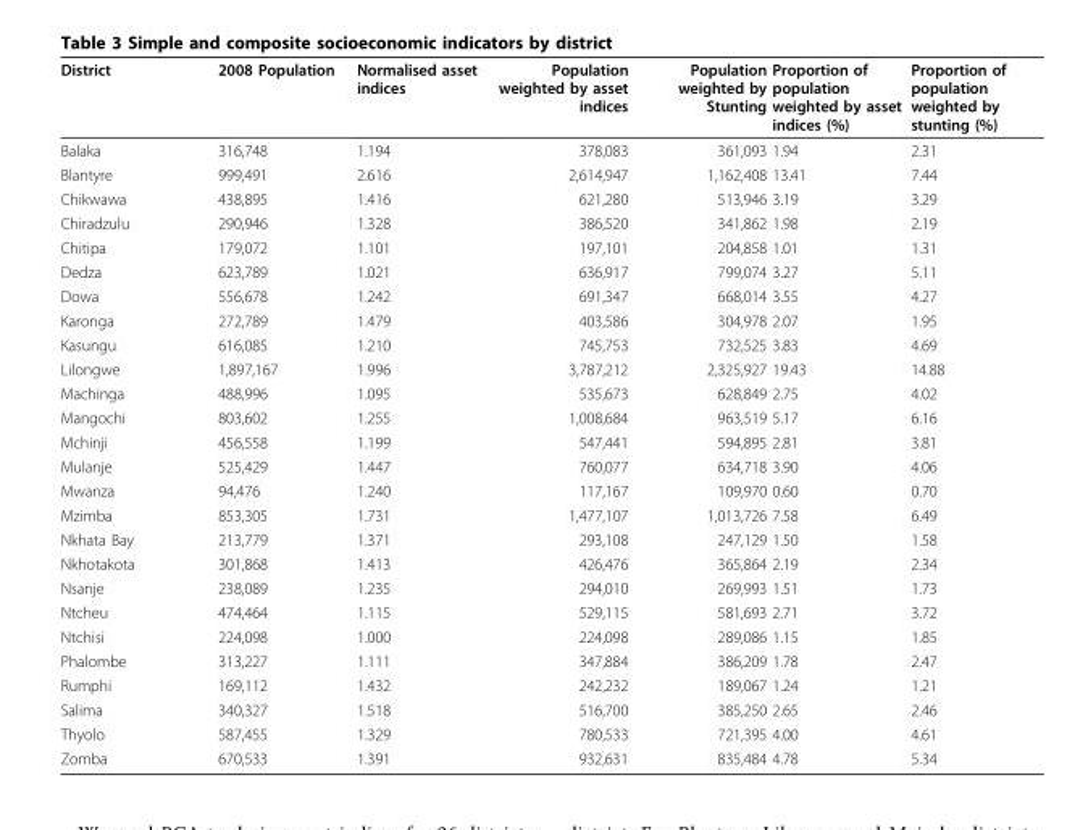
<table><thead><tr><td>District</td><td>2008 Population</td><td>Normalised asset indices</td><td>Population weighted by asset indices</td><td>Population weighted by Stunting</td><td>Proportion of population weighted by asset indices (%)</td><td>Proportion of population weighted by stunting (%)</td></tr></thead><tbody><tr><td>Balaka</td><td>316,748</td><td>1.194</td><td>378,083</td><td>361,093</td><td>1.94</td><td>2.31</td></tr><tr><td>Blantyre</td><td>999,491</td><td>2.616</td><td>2,614,947</td><td>1,162,408</td><td>13.41</td><td>7.44</td></tr><tr><td>Chikwawa</td><td>438,895</td><td>1.416</td><td>621,280</td><td>513,946</td><td>3.19</td><td>3.29</td></tr><tr><td>Chiradzulu</td><td>290,946</td><td>1.328</td><td>386,520</td><td>341,862</td><td>1.98</td><td>2.19</td></tr><tr><td>Chitipa</td><td>179,072</td><td>1.101</td><td>197,101</td><td>204,858</td><td>1.01</td><td>1.31</td></tr><tr><td>Dedza</td><td>623,789</td><td>1.021</td><td>636,917</td><td>799,074</td><td>3.27</td><td>5.11</td></tr><tr><td>Dowa</td><td>556,678</td><td>1.242</td><td>691,347</td><td>668,014</td><td>3.55</td><td>4.27</td></tr><tr><td>Karonga</td><td>272,789</td><td>1.479</td><td>403,586</td><td>304,978</td><td>2.07</td><td>1.95</td></tr><tr><td>Kasungu</td><td>616,085</td><td>1.210</td><td>745,753</td><td>732,525</td><td>3.83</td><td>4.69</td></tr><tr><td>Lilongwe</td><td>1,897,167</td><td>1.996</td><td>3,787,212</td><td>2,325,927</td><td>19.43</td><td>14.88</td></tr><tr><td>Machinga</td><td>488,996</td><td>1.095</td><td>535,673</td><td>628,849</td><td>2.75</td><td>4.02</td></tr><tr><td>Mangochi</td><td>803,602</td><td>1.255</td><td>1,008,684</td><td>963,519</td><td>5.17</td><td>6.16</td></tr><tr><td>Mchinji</td><td>456,558</td><td>1.199</td><td>547,441</td><td>594,895</td><td>2.81</td><td>3.81</td></tr><tr><td>Mulanje</td><td>525,429</td><td>1.447</td><td>760,077</td><td>634,718</td><td>3.90</td><td>4.06</td></tr><tr><td>Mwanza</td><td>94,476</td><td>1.240</td><td>117,167</td><td>109,970</td><td>0.60</td><td>0.70</td></tr><tr><td>Mzimba</td><td>853,305</td><td>1.731</td><td>1,477,107</td><td>1,013,726</td><td>7.58</td><td>6.49</td></tr><tr><td>Nkhata Bay</td><td>213,779</td><td>1.371</td><td>293,108</td><td>247,129</td><td>1.50</td><td>1.58</td></tr><tr><td>Nkhotakota</td><td>301,868</td><td>1.413</td><td>426,476</td><td>365,864</td><td>2.19</td><td>2.34</td></tr><tr><td>Nsanje</td><td>238,089</td><td>1.235</td><td>294,010</td><td>269,993</td><td>1.51</td><td>1.73</td></tr><tr><td>Ntcheu</td><td>474,464</td><td>1.115</td><td>529,115</td><td>581,693</td><td>2.71</td><td>3.72</td></tr><tr><td>Ntchisi</td><td>224,098</td><td>1.000</td><td>224,098</td><td>289,086</td><td>1.15</td><td>1.85</td></tr><tr><td>Phalombe</td><td>313,227</td><td>1.111</td><td>347,884</td><td>386,209</td><td>1.78</td><td>2.47</td></tr><tr><td>Rumphi</td><td>169,112</td><td>1.432</td><td>242,232</td><td>189,067</td><td>1.24</td><td>1.21</td></tr><tr><td>Salima</td><td>340,327</td><td>1.518</td><td>516,700</td><td>385,250</td><td>2.65</td><td>2.46</td></tr><tr><td>Thyolo</td><td>587,455</td><td>1.329</td><td>780,533</td><td>721,395</td><td>4.00</td><td>4.61</td></tr><tr><td>Zomba</td><td>670,533</td><td>1.391</td><td>932,631</td><td>835,484</td><td>4.78</td><td>5.34</td></tr></tbody></table>